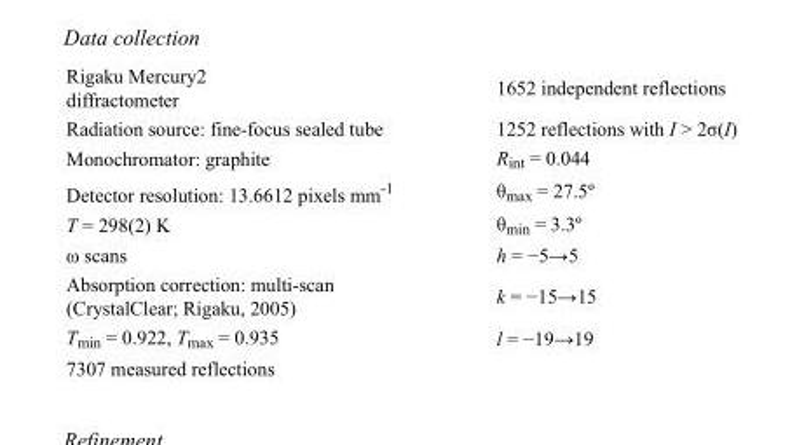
<table><tbody><tr><td>Rigaku Mercury2 diffractometer</td><td>1652 independent reflections</td></tr><tr><td>Radiation source: fine-focus sealed tube</td><td>1252 reflections with I &gt; 2σ(I)</td></tr><tr><td>Monochromator: graphite</td><td>R<sub>int</sub> = 0.044</td></tr><tr><td>Detector resolution: 13.6612 pixels mm<sup>-1</sup></td><td>θ<sub>max</sub> = 27.5º</td></tr><tr><td>T = 298(2) K</td><td>θ<sub>min</sub> = 3.3º</td></tr><tr><td>ω scans</td><td>h = −5→5</td></tr><tr><td>Absorption correction: multi-scan (CrystalClear; Rigaku, 2005)</td><td>k = −15→15</td></tr><tr><td>T<sub>min</sub> = 0.922, T<sub>max</sub> = 0.935</td><td>l = −19→19</td></tr><tr><td>7307 measured reflections</td><td></td></tr></tbody></table>